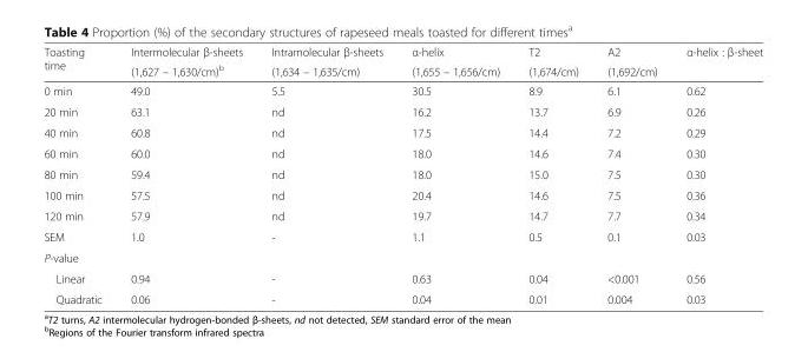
<table><thead><tr><td rowspan="2">Toasting time</td><td rowspan="2">Intermolecular β-sheets (1,627 – 1,630/cm)<sup>b</sup></td><td rowspan="2">Intramolecular β-sheets (1,634 – 1,635/cm)</td><td rowspan="2">α-helix (1,655 – 1,656/cm)</td><td rowspan="2">T2 (1,674/cm)</td><td rowspan="2">A2 (1,692/cm)</td><td rowspan="2">α-helix : β-sheet</td></tr><tr></tr></thead><tbody><tr><td>0 min</td><td>49.0</td><td>5.5</td><td>30.5</td><td>8.9</td><td>6.1</td><td>0.62</td></tr><tr><td>20 min</td><td>63.1</td><td>nd</td><td>16.2</td><td>13.7</td><td>6.9</td><td>0.26</td></tr><tr><td>40 min</td><td>60.8</td><td>nd</td><td>17.5</td><td>14.4</td><td>7.2</td><td>0.29</td></tr><tr><td>60 min</td><td>60.0</td><td>nd</td><td>18.0</td><td>14.6</td><td>7.4</td><td>0.30</td></tr><tr><td>80 min</td><td>59.4</td><td>nd</td><td>18.0</td><td>15.0</td><td>7.5</td><td>0.30</td></tr><tr><td>100 min</td><td>57.5</td><td>nd</td><td>20.4</td><td>14.6</td><td>7.5</td><td>0.36</td></tr><tr><td>120 min</td><td>57.9</td><td>nd</td><td>19.7</td><td>14.7</td><td>7.7</td><td>0.34</td></tr><tr><td>SEM</td><td>1.0</td><td>-</td><td>1.1</td><td>0.5</td><td>0.1</td><td>0.03</td></tr><tr><td colspan="7">P-value</td></tr><tr><td>Linear</td><td>0.94</td><td>-</td><td>0.63</td><td>0.04</td><td>&lt;0.001</td><td>0.56</td></tr><tr><td>Quadratic</td><td>0.06</td><td>-</td><td>0.04</td><td>0.01</td><td>0.004</td><td>0.03</td></tr></tbody></table>